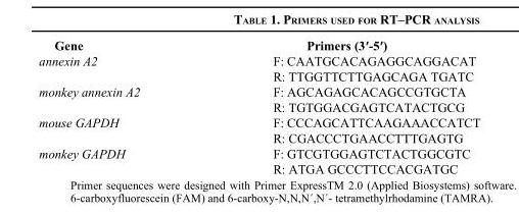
<table><thead><tr><td>Gene</td><td>Primers (3′-5′)</td></tr></thead><tbody><tr><td rowspan="2">annexin A2</td><td>F: CAATGCACAGAGGCAGGACAT</td></tr><tr><td>R: TTGGTTCTTGAGCAGA TGATC</td></tr><tr><td rowspan="2">monkey annexin A2</td><td>F: AGCAGAGCACAGCCGTGCTA</td></tr><tr><td>R: TGTGGACGAGTCATACTGCG</td></tr><tr><td rowspan="2">mouse GAPDH</td><td>F: CCCAGCATTCAAGAAACCATCT</td></tr><tr><td>R: CGACCCTGAACCTTTGAGTG</td></tr><tr><td rowspan="2">monkey GAPDH</td><td>F: GTCGTGGAGTCTACTGGCGTC</td></tr><tr><td>R: ATGA GCCCTTCCACGATGC</td></tr></tbody></table>